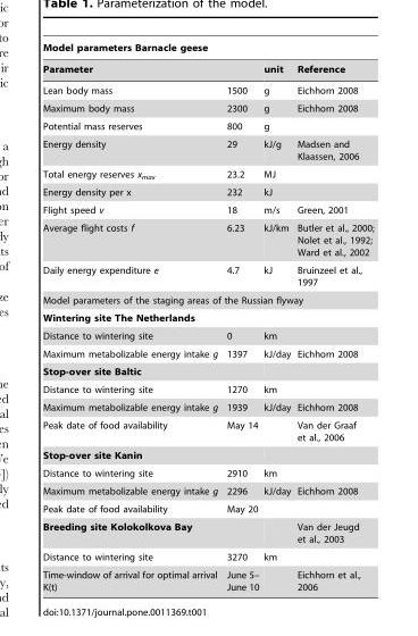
<table><thead><tr><td colspan="4">Model parameters Barnacle geese</td></tr><tr><td>Parameter</td><td></td><td>unit</td><td>Reference</td></tr></thead><tbody><tr><td>Lean body mass</td><td>1500</td><td>g</td><td>Eichhorn 2008</td></tr><tr><td>Maximum body mass</td><td>2300</td><td>g</td><td>Eichhorn 2008</td></tr><tr><td>Potential mass reserves</td><td>800</td><td>g</td><td></td></tr><tr><td>Energy density</td><td>29</td><td>kJ/g</td><td>Madsen and Klaassen, 2006</td></tr><tr><td>Total energy reserves x<sub>max</sub></td><td>23.2</td><td>MJ</td><td></td></tr><tr><td>Energy density per x</td><td>232</td><td>kJ</td><td></td></tr><tr><td>Flight speed v</td><td>18</td><td>m/s</td><td>Green, 2001</td></tr><tr><td>Average flight costs f</td><td>6.23</td><td>kJ/km</td><td>Butler et al., 2000; Nolet et al., 1992; Ward et al., 2002</td></tr><tr><td>Daily energy expenditure e</td><td>4.7</td><td>kJ</td><td>Bruinzeel et al., 1997</td></tr><tr><td colspan="4">Model parameters of the staging areas of the Russian flyway</td></tr><tr><td colspan="4">Wintering site The Netherlands</td></tr><tr><td>Distance to wintering site</td><td>0</td><td>km</td><td></td></tr><tr><td>Maximum metabolizable energy intake g</td><td>1397</td><td>kJ/day</td><td>Eichhorn 2008</td></tr><tr><td colspan="4">Stop-over site Baltic</td></tr><tr><td>Distance to wintering site</td><td>1270</td><td>km</td><td></td></tr><tr><td>Maximum metabolizable energy intake g</td><td>1939</td><td>kJ/day</td><td>Eichhorn 2008</td></tr><tr><td>Peak date of food availability</td><td>May 14</td><td></td><td>Van der Graaf et al., 2006</td></tr><tr><td colspan="4">Stop-over site Kanin</td></tr><tr><td>Distance to wintering site</td><td>2910</td><td>km</td><td></td></tr><tr><td>Maximum metabolizable energy intake g</td><td>2296</td><td>kJ/day</td><td>Eichhorn 2008</td></tr><tr><td>Peak date of food availability</td><td>May 20</td><td></td><td></td></tr><tr><td>Breeding site Kolokolkova Bay</td><td></td><td></td><td>Van der Jeugd et al., 2003</td></tr><tr><td>Distance to wintering site</td><td>3270</td><td>km</td><td></td></tr><tr><td>Time-window of arrival for optimal arrival K(t)</td><td>June 5– June 10</td><td></td><td>Eichhorn et al., 2006</td></tr></tbody></table>